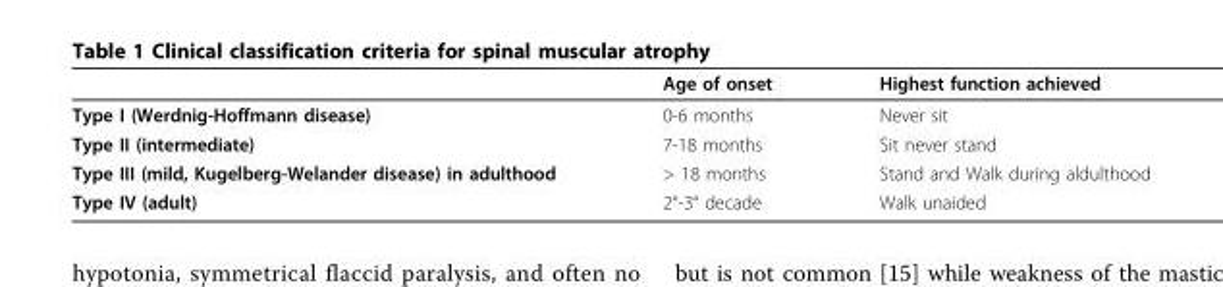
<table><thead><tr><td></td><td>Age of onset</td><td>Highest function achieved</td></tr></thead><tbody><tr><td>Type I (Werdnig-Hoffmann disease)</td><td>0-6 months</td><td>Never sit</td></tr><tr><td>Type II (intermediate)</td><td>7-18 months</td><td>Sit never stand</td></tr><tr><td>Type III (mild, Kugelberg-Welander disease) in adulthood</td><td>&gt; 18 months</td><td>Stand and Walk during aldulthood</td></tr><tr><td>Type IV (adult)</td><td>2°-3° decade</td><td>Walk unaided</td></tr></tbody></table>